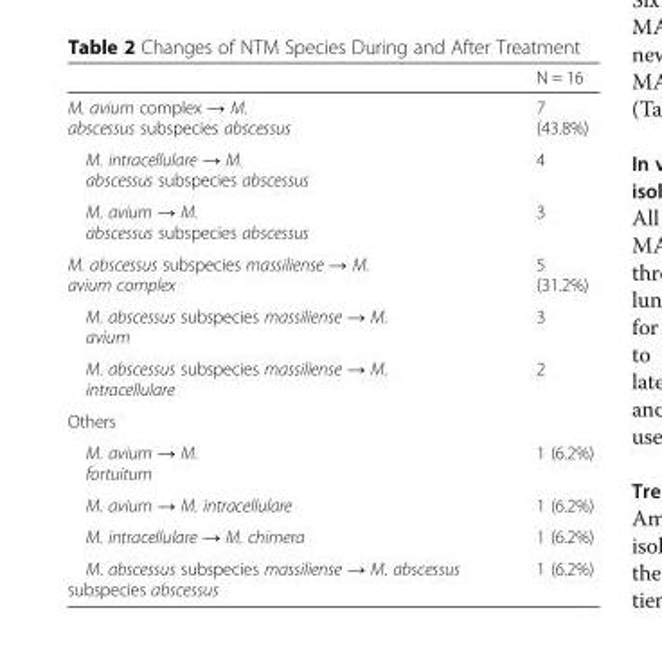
<table><thead><tr><td></td><td>N = 16</td></tr></thead><tbody><tr><td>M. avium complex → M. abscessus subspecies abscessus</td><td>7 (43.8%)</td></tr><tr><td>M. intracellulare → M. abscessus subspecies abscessus</td><td>4</td></tr><tr><td>M. avium → M. abscessus subspecies abscessus</td><td>3</td></tr><tr><td>M. abscessus subspecies massiliense → M. avium complex</td><td>5 (31.2%)</td></tr><tr><td>M. abscessus subspecies massiliense → M. avium</td><td>3</td></tr><tr><td>M. abscessus subspecies massiliense → M. intracellulare</td><td>2</td></tr><tr><td colspan="2">Others</td></tr><tr><td>M. avium → M. fortuitum</td><td>1 (6.2%)</td></tr><tr><td>M. avium → M. intracellulare</td><td>1 (6.2%)</td></tr><tr><td>M. intracellulare → M. chimera</td><td>1 (6.2%)</td></tr><tr><td>M. abscessus subspecies massiliense → M. abscessus subspecies abscessus</td><td>1 (6.2%)</td></tr></tbody></table>